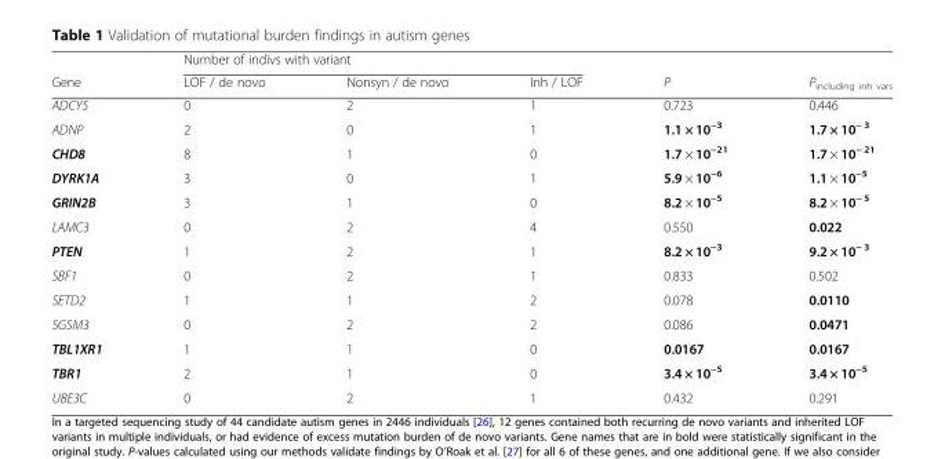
<table><thead><tr><td rowspan="2">Gene</td><td colspan="3">Number of indivs with variant</td><td rowspan="2">P</td><td rowspan="2">P<sub>including inh vars</sub></td></tr><tr><td>LOF / de novo</td><td>Nonsyn / de novo</td><td>Inh / LOF</td></tr></thead><tbody><tr><td>ADCY5</td><td>0</td><td>2</td><td>1</td><td>0.723</td><td>0.446</td></tr><tr><td>ADNP</td><td>2</td><td>0</td><td>1</td><td>1.1 × 10<sup>−3</sup></td><td>1.7 × 10<sup>− 3</sup></td></tr><tr><td>CHD8</td><td>8</td><td>1</td><td>0</td><td>1.7 × 10<sup>−21</sup></td><td>1.7 × 10<sup>− 21</sup></td></tr><tr><td>DYRK1A</td><td>3</td><td>0</td><td>1</td><td>5.9 × 10<sup>−6</sup></td><td>1.1 × 10<sup>−5</sup></td></tr><tr><td>GRIN2B</td><td>3</td><td>1</td><td>0</td><td>8.2 × 10<sup>−5</sup></td><td>8.2 × 10<sup>− 5</sup></td></tr><tr><td>LAMC3</td><td>0</td><td>2</td><td>4</td><td>0.550</td><td>0.022</td></tr><tr><td>PTEN</td><td>1</td><td>2</td><td>1</td><td>8.2 × 10<sup>−3</sup></td><td>9.2 × 10<sup>− 3</sup></td></tr><tr><td>SBF1</td><td>0</td><td>2</td><td>1</td><td>0.833</td><td>0.502</td></tr><tr><td>SETD2</td><td>1</td><td>1</td><td>2</td><td>0.078</td><td>0.0110</td></tr><tr><td>SGSM3</td><td>0</td><td>2</td><td>2</td><td>0.086</td><td>0.0471</td></tr><tr><td>TBL1XR1</td><td>1</td><td>1</td><td>0</td><td>0.0167</td><td>0.0167</td></tr><tr><td>TBR1</td><td>2</td><td>1</td><td>0</td><td>3.4 × 10<sup>−5</sup></td><td>3.4 × 10<sup>−5</sup></td></tr><tr><td>UBE3C</td><td>0</td><td>2</td><td>1</td><td>0.432</td><td>0.291</td></tr></tbody></table>